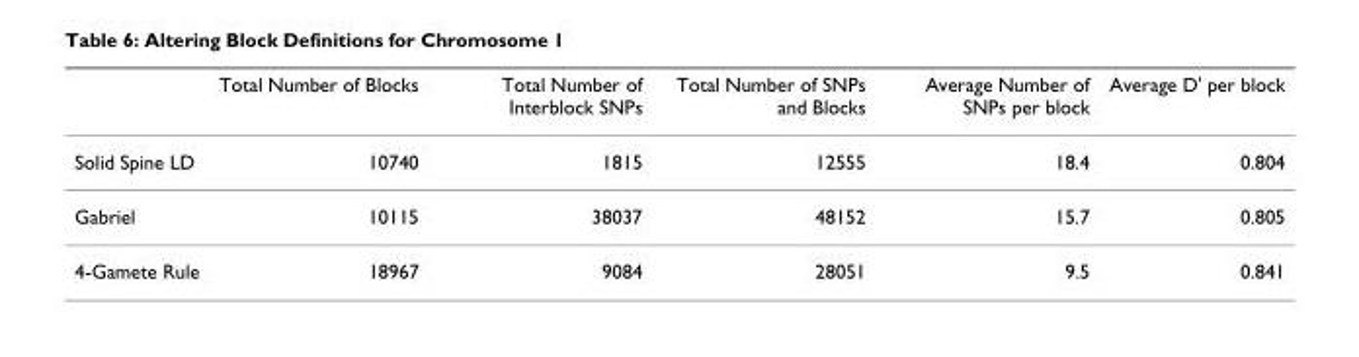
<table><thead><tr><td></td><td>Total Number of Blocks</td><td>Total Number of Interblock SNPs</td><td>Total Number of SNPs and Blocks</td><td>Average Number of SNPs per block</td><td>Average D&#x27; per block</td></tr></thead><tbody><tr><td>Solid Spine LD</td><td>10740</td><td>1815</td><td>12555</td><td>18.4</td><td>0.804</td></tr><tr><td>Gabriel</td><td>10115</td><td>38037</td><td>48152</td><td>15.7</td><td>0.805</td></tr><tr><td>4-Gamete Rule</td><td>18967</td><td>9084</td><td>28051</td><td>9.5</td><td>0.841</td></tr></tbody></table>